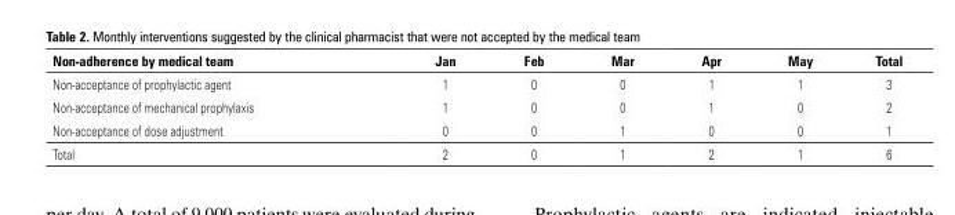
<table><thead><tr><td>Non-adherence by medical team</td><td>Jan</td><td>Feb</td><td>Mar</td><td>Apr</td><td>May</td><td>Total</td></tr></thead><tbody><tr><td>Non-acceptance of prophylactic agent</td><td>1</td><td>0</td><td>0</td><td>1</td><td>1</td><td>3</td></tr><tr><td>Non-acceptance of mechanical prophylaxis</td><td>1</td><td>0</td><td>0</td><td>1</td><td>0</td><td>2</td></tr><tr><td>Non-acceptance of dose adjustment</td><td>0</td><td>0</td><td>1</td><td>0</td><td>0</td><td>1</td></tr><tr><td>Total</td><td>2</td><td>0</td><td>1</td><td>2</td><td>1</td><td>6</td></tr></tbody></table>